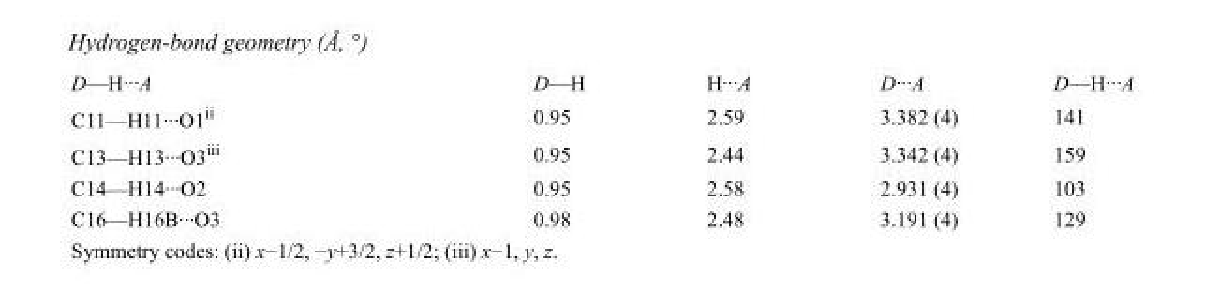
<table><tbody><tr><td>D—H···A</td><td>D—H</td><td>H···A</td><td>D···A</td><td>D—H···A</td></tr><tr><td>C11—H11···O1<sup>ii</sup></td><td>0.95</td><td>2.59</td><td>3.382 (4)</td><td>141</td></tr><tr><td>C13—H13···O3<sup>iii</sup></td><td>0.95</td><td>2.44</td><td>3.342 (4)</td><td>159</td></tr><tr><td>C14—H14···O2</td><td>0.95</td><td>2.58</td><td>2.931 (4)</td><td>103</td></tr><tr><td>C16—H16B···O3</td><td>0.98</td><td>2.48</td><td>3.191 (4)</td><td>129</td></tr></tbody></table>